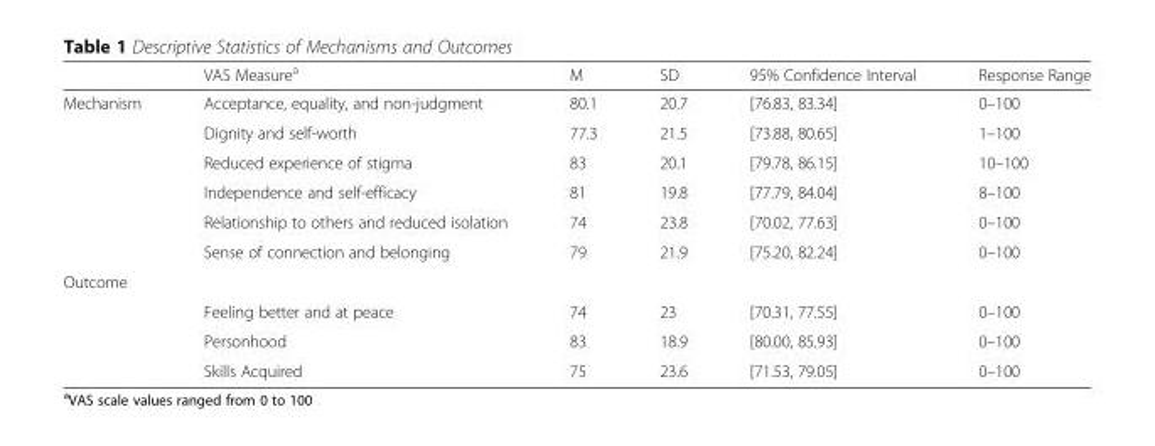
<table><thead><tr><td></td><td>VAS Measure<sup>a</sup></td><td>M</td><td>SD</td><td>95% Confidence Interval</td><td>Response Range</td></tr></thead><tbody><tr><td rowspan="6">Mechanism</td><td>Acceptance, equality, and non-judgment</td><td>80.1</td><td>20.7</td><td>[76.83, 83.34]</td><td>0–100</td></tr><tr><td>Dignity and self-worth</td><td>77.3</td><td>21.5</td><td>[73.88, 80.65]</td><td>1–100</td></tr><tr><td>Reduced experience of stigma</td><td>83</td><td>20.1</td><td>[79.78, 86.15]</td><td>10–100</td></tr><tr><td>Independence and self-efficacy</td><td>81</td><td>19.8</td><td>[77.79, 84.04]</td><td>8–100</td></tr><tr><td>Relationship to others and reduced isolation</td><td>74</td><td>23.8</td><td>[70.02, 77.63]</td><td>0–100</td></tr><tr><td>Sense of connection and belonging</td><td>79</td><td>21.9</td><td>[75.20, 82.24]</td><td>0–100</td></tr><tr><td colspan="6">Outcome</td></tr><tr><td></td><td>Feeling better and at peace</td><td>74</td><td>23</td><td>[70.31, 77.55]</td><td>0–100</td></tr><tr><td></td><td>Personhood</td><td>83</td><td>18.9</td><td>[80.00, 85.93]</td><td>0–100</td></tr><tr><td></td><td>Skills Acquired</td><td>75</td><td>23.6</td><td>[71.53, 79.05]</td><td>0–100</td></tr></tbody></table>